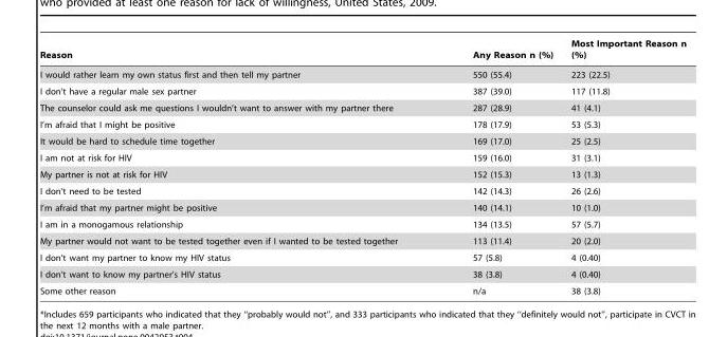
<table><thead><tr><td>Reason</td><td>Any Reason n (%)</td><td>Most Important Reason n (%)</td></tr></thead><tbody><tr><td>I would rather learn my own status first and then tell my partner</td><td>550 (55.4)</td><td>223 (22.5)</td></tr><tr><td>I don’t have a regular male sex partner</td><td>387 (39.0)</td><td>117 (11.8)</td></tr><tr><td>The counselor could ask me questions I wouldn’t want to answer with my partner there</td><td>287 (28.9)</td><td>41 (4.1)</td></tr><tr><td>I’m afraid that I might be positive</td><td>178 (17.9)</td><td>53 (5.3)</td></tr><tr><td>It would be hard to schedule time together</td><td>169 (17.0)</td><td>25 (2.5)</td></tr><tr><td>I am not at risk for HIV</td><td>159 (16.0)</td><td>31 (3.1)</td></tr><tr><td>My partner is not at risk for HIV</td><td>152 (15.3)</td><td>13 (1.3)</td></tr><tr><td>I don’t need to be tested</td><td>142 (14.3)</td><td>26 (2.6)</td></tr><tr><td>I’m afraid that my partner might be positive</td><td>140 (14.1)</td><td>10 (1.0)</td></tr><tr><td>I am in a monogamous relationship</td><td>134 (13.5)</td><td>57 (5.7)</td></tr><tr><td>My partner would not want to be tested together even if I wanted to be tested together</td><td>113 (11.4)</td><td>20 (2.0)</td></tr><tr><td>I don’t want my partner to know my HIV status</td><td>57 (5.8)</td><td>4 (0.40)</td></tr><tr><td>I don’t want to know my partner’s HIV status</td><td>38 (3.8)</td><td>4 (0.40)</td></tr><tr><td>Some other reason</td><td>n/a</td><td>38 (3.8)</td></tr></tbody></table>